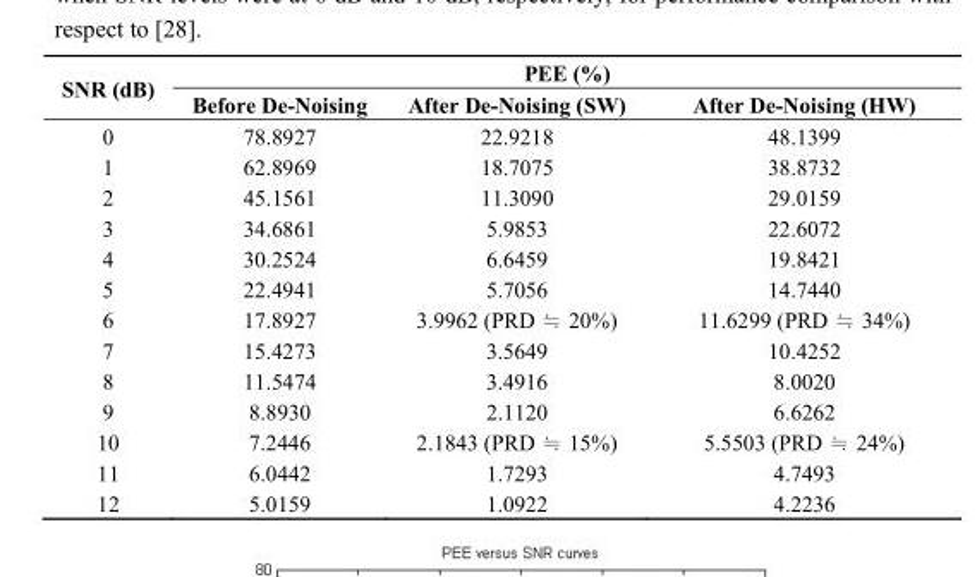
<table><thead><tr><td rowspan="2">SNR (dB)</td><td colspan="3">PEE (%)</td></tr><tr><td>Before De-Noising</td><td>After De-Noising (SW)</td><td>After De-Noising (HW)</td></tr></thead><tbody><tr><td>0</td><td>78.8927</td><td>22.9218</td><td>48.1399</td></tr><tr><td>1</td><td>62.8969</td><td>18.7075</td><td>38.8732</td></tr><tr><td>2</td><td>45.1561</td><td>11.3090</td><td>29.0159</td></tr><tr><td>3</td><td>34.6861</td><td>5.9853</td><td>22.6072</td></tr><tr><td>4</td><td>30.2524</td><td>6.6459</td><td>19.8421</td></tr><tr><td>5</td><td>22.4941</td><td>5.7056</td><td>14.7440</td></tr><tr><td>6</td><td>17.8927</td><td>3.9962 (PRD ≒ 20%)</td><td>11.6299 (PRD ≒ 34%)</td></tr><tr><td>7</td><td>15.4273</td><td>3.5649</td><td>10.4252</td></tr><tr><td>8</td><td>11.5474</td><td>3.4916</td><td>8.0020</td></tr><tr><td>9</td><td>8.8930</td><td>2.1120</td><td>6.6262</td></tr><tr><td>10</td><td>7.2446</td><td>2.1843 (PRD ≒ 15%)</td><td>5.5503 (PRD ≒ 24%)</td></tr><tr><td>11</td><td>6.0442</td><td>1.7293</td><td>4.7493</td></tr><tr><td>12</td><td>5.0159</td><td>1.0922</td><td>4.2236</td></tr></tbody></table>